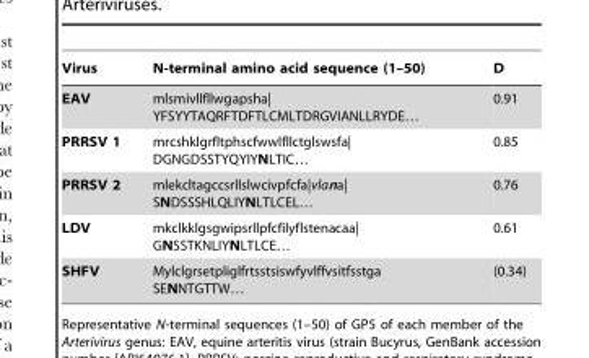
<table><thead><tr><td>Virus</td><td>N-terminal amino acid sequence (1–50)</td><td>D</td></tr></thead><tbody><tr><td>EAV</td><td>mlsmivllfllwgapsha| YFSYYTAQRFTDFTLCMLTDRGVIANLLRYDE…</td><td>0.91</td></tr><tr><td>PRRSV 1</td><td>mrcshklgrfltphscfwwlfllctglswsfa| DGNGDSSTYQYIYNLTIC…</td><td>0.85</td></tr><tr><td>PRRSV 2</td><td>mlekcltagccsrllslwcivpfcfa|vlana| SNDSSSHLQLIYNLTLCEL…</td><td>0.76</td></tr><tr><td>LDV</td><td>mkclkklgsgwipsrllpfcfilyflstenacaa| GNSSTKNLIYNLTLCE…</td><td>0.61</td></tr><tr><td>SHFV</td><td>Mylclgrsetpliglfrtsstsiswfyvlffvsitfsstga SENNTGTTW…</td><td>(0.34)</td></tr></tbody></table>